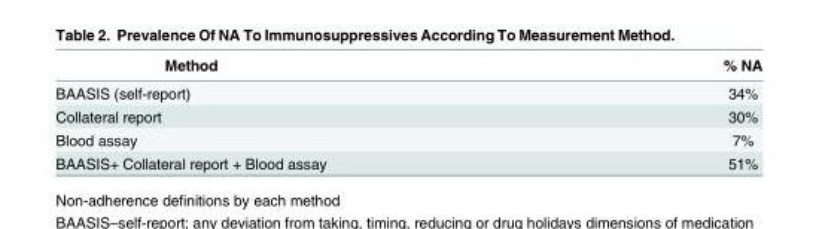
<table><thead><tr><td>Method</td><td>% NA</td></tr></thead><tbody><tr><td>BAASIS (self-report)</td><td>34%</td></tr><tr><td>Collateral report</td><td>30%</td></tr><tr><td>Blood assay</td><td>7%</td></tr><tr><td>BAASIS+ Collateral report + Blood assay</td><td>51%</td></tr></tbody></table>